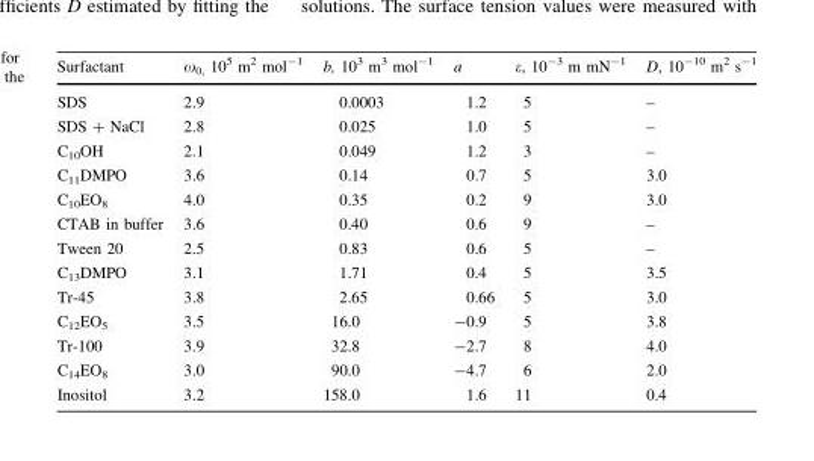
<table><thead><tr><td>Surfactant</td><td>ω<sub>0,</sub> 10<sup>5</sup> m<sup>2</sup> mol<sup>-1</sup></td><td>b, 10<sup>3</sup> m<sup>3</sup> mol<sup>-1</sup></td><td>a</td><td>ε, 10<sup>-3</sup> m mN<sup>-1</sup></td><td>D, 10<sup>-10</sup> m<sup>2</sup> s<sup>-1</sup></td></tr></thead><tbody><tr><td>SDS</td><td>2.9</td><td>0.0003</td><td>1.2</td><td>5</td><td>–</td></tr><tr><td>SDS + NaCl</td><td>2.8</td><td>0.025</td><td>1.0</td><td>5</td><td>–</td></tr><tr><td>C<sub>10</sub>OH</td><td>2.1</td><td>0.049</td><td>1.2</td><td>3</td><td>–</td></tr><tr><td>C<sub>11</sub>DMPO</td><td>3.6</td><td>0.14</td><td>0.7</td><td>5</td><td>3.0</td></tr><tr><td>C<sub>10</sub>EO<sub>8</sub></td><td>4.0</td><td>0.35</td><td>0.2</td><td>9</td><td>3.0</td></tr><tr><td>CTAB in buffer</td><td>3.6</td><td>0.40</td><td>0.6</td><td>9</td><td>–</td></tr><tr><td>Tween 20</td><td>2.5</td><td>0.83</td><td>0.6</td><td>5</td><td>–</td></tr><tr><td>C<sub>13</sub>DMPO</td><td>3.1</td><td>1.71</td><td>0.4</td><td>5</td><td>3.5</td></tr><tr><td>Tr-45</td><td>3.8</td><td>2.65</td><td>0.66</td><td>5</td><td>3.0</td></tr><tr><td>C<sub>12</sub>EO<sub>5</sub></td><td>3.5</td><td>16.0</td><td>-0.9</td><td>5</td><td>3.8</td></tr><tr><td>Tr-100</td><td>3.9</td><td>32.8</td><td>-2.7</td><td>8</td><td>4.0</td></tr><tr><td>C<sub>14</sub>EO<sub>8</sub></td><td>3.0</td><td>90.0</td><td>-4.7</td><td>6</td><td>2.0</td></tr><tr><td>Inositol</td><td>3.2</td><td>158.0</td><td>1.6</td><td>11</td><td>0.4</td></tr></tbody></table>